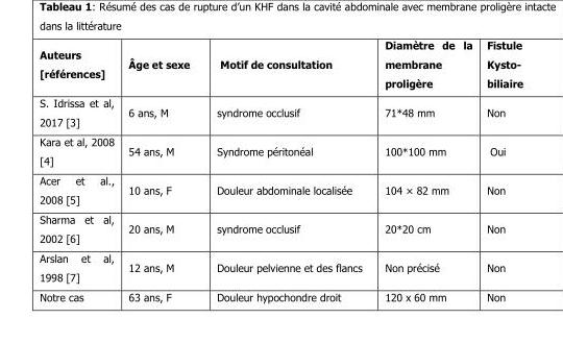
<table><thead><tr><td>Auteurs [références]</td><td>Âge et sexe</td><td>Motif de consultation</td><td>Diamètre de la membrane proligère</td><td>Fistule Kysto- biliaire</td></tr></thead><tbody><tr><td>S. Idrissa et al, 2017 [3]</td><td>6 ans, M</td><td>syndrome occlusif</td><td>71*48 mm</td><td>Non</td></tr><tr><td>Kara et al, 2008 [4]</td><td>54 ans, M</td><td>Syndrome péritonéal</td><td>100*100 mm</td><td>Oui</td></tr><tr><td>Acer et al., 2008 [5]</td><td>10 ans, F</td><td>Douleur abdominale localisée</td><td>104 × 82 mm</td><td>Non</td></tr><tr><td>Sharma et al, 2002 [6]</td><td>20 ans, M</td><td>syndrome occlusif</td><td>20*20 cm</td><td>Non</td></tr><tr><td>Arslan et al, 1998 [7]</td><td>12 ans, M</td><td>Douleur pelvienne et des flancs</td><td>Non précisé</td><td>Non</td></tr><tr><td>Notre cas</td><td>63 ans, F</td><td>Douleur hypochondre droit</td><td>120 x 60 mm</td><td>Non</td></tr></tbody></table>